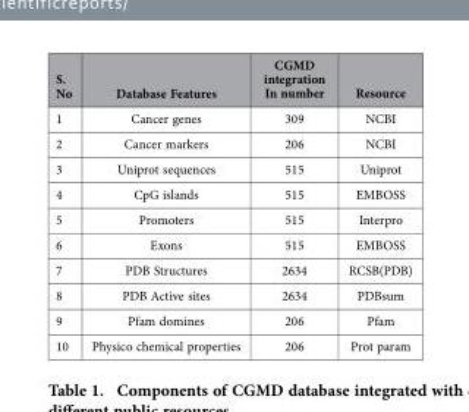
<table><thead><tr><td>S. No</td><td>Database Features</td><td>CGMD integration In number</td><td>Resource</td></tr></thead><tbody><tr><td>1</td><td>Cancer genes</td><td>309</td><td>NCBI</td></tr><tr><td>2</td><td>Cancer markers</td><td>206</td><td>NCBI</td></tr><tr><td>3</td><td>Uniprot sequences</td><td>515</td><td>Uniprot</td></tr><tr><td>4</td><td>CpG islands</td><td>515</td><td>EMBOSS</td></tr><tr><td>5</td><td>Promoters</td><td>515</td><td>Interpro</td></tr><tr><td>6</td><td>Exons</td><td>515</td><td>EMBOSS</td></tr><tr><td>7</td><td>PDB Structures</td><td>2634</td><td>RCSB(PDB)</td></tr><tr><td>8</td><td>PDB Active sites</td><td>2634</td><td>PDBsum</td></tr><tr><td>9</td><td>Pfam domines</td><td>206</td><td>Pfam</td></tr><tr><td>10</td><td>Physico chemical properties</td><td>206</td><td>Prot param</td></tr></tbody></table>